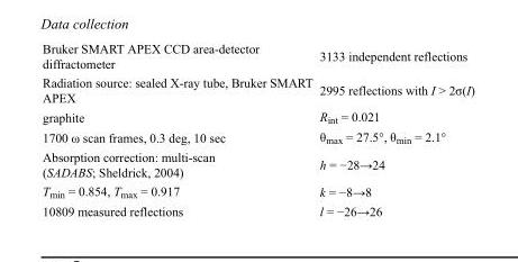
<table><tbody><tr><td>Bruker SMART APEX CCD area-detector diffractometer</td><td>3133 independent reflections</td></tr><tr><td>Radiation source: sealed X-ray tube, Bruker SMART APEX</td><td>2995 reflections with I &gt; 2σ(I)</td></tr><tr><td>graphite</td><td>R<sub>int</sub> = 0.021</td></tr><tr><td>1700 ω scan frames, 0.3 deg, 10 sec</td><td>θ<sub>max</sub> = 27.5°, θ<sub>min</sub> = 2.1°</td></tr><tr><td>Absorption correction: multi-scan (SADABS; Sheldrick, 2004)</td><td>h = −28→24</td></tr><tr><td>T<sub>min</sub> = 0.854, T<sub>max</sub> = 0.917</td><td>k = −8→8</td></tr><tr><td>10809 measured reflections</td><td>l = −26→26</td></tr></tbody></table>